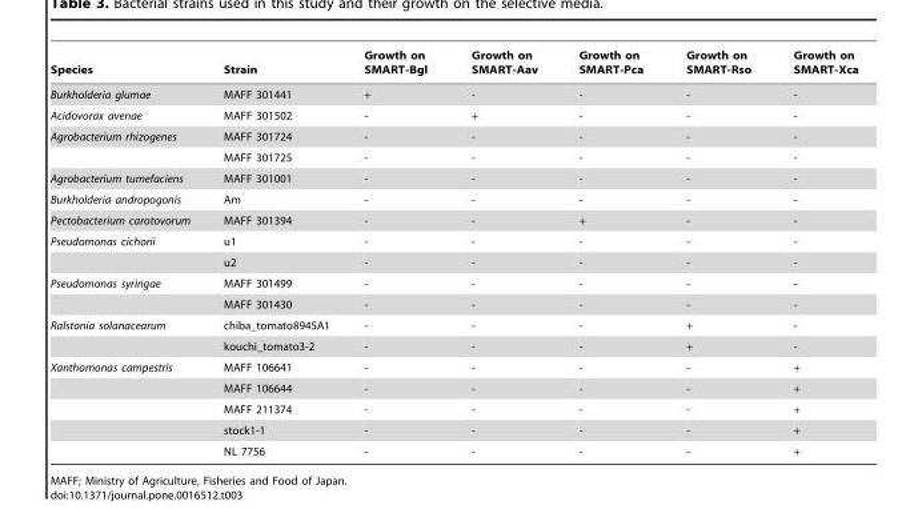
<table><thead><tr><td>Species</td><td>Strain</td><td>Growth on SMART-Bgl</td><td>Growth on SMART-Aav</td><td>Growth on SMART-Pca</td><td>Growth on SMART-Rso</td><td>Growth on SMART-Xca</td></tr></thead><tbody><tr><td>Burkholderia glumae</td><td>MAFF 301441</td><td>+</td><td>-</td><td>-</td><td>-</td><td>-</td></tr><tr><td>Acidovorax avenae</td><td>MAFF 301502</td><td>-</td><td>+</td><td>-</td><td>-</td><td>-</td></tr><tr><td rowspan="2">Agrobacterium rhizogenes</td><td>MAFF 301724</td><td>-</td><td>-</td><td>-</td><td>-</td><td>-</td></tr><tr><td>MAFF 301725</td><td>-</td><td>-</td><td>-</td><td>-</td><td>-</td></tr><tr><td>Agrobacterium tumefaciens</td><td>MAFF 301001</td><td>-</td><td>-</td><td>-</td><td>-</td><td>-</td></tr><tr><td>Burkholderia andropogonis</td><td>Am</td><td>-</td><td>-</td><td>-</td><td>-</td><td>-</td></tr><tr><td>Pectobacterium carotovorum</td><td>MAFF 301394</td><td>-</td><td>-</td><td>+</td><td>-</td><td>-</td></tr><tr><td rowspan="2">Pseudomonas cichorii</td><td>u1</td><td>-</td><td>-</td><td>-</td><td>-</td><td>-</td></tr><tr><td>u2</td><td>-</td><td>-</td><td>-</td><td>-</td><td>-</td></tr><tr><td rowspan="2">Pseudomonas syringae</td><td>MAFF 301499</td><td>-</td><td>-</td><td>-</td><td>-</td><td>-</td></tr><tr><td>MAFF 301430</td><td>-</td><td>-</td><td>-</td><td>-</td><td>-</td></tr><tr><td rowspan="2">Ralstonia solanacearum</td><td>chiba_tomato8945A1</td><td>-</td><td>-</td><td>-</td><td>+</td><td>-</td></tr><tr><td>kouchi_tomato3-2</td><td>-</td><td>-</td><td>-</td><td>+</td><td>-</td></tr><tr><td rowspan="5">Xanthomonas campestris</td><td>MAFF 106641</td><td>-</td><td>-</td><td>-</td><td>-</td><td>+</td></tr><tr><td>MAFF 106644</td><td>-</td><td>-</td><td>-</td><td>-</td><td>+</td></tr><tr><td>MAFF 211374</td><td>-</td><td>-</td><td>-</td><td>-</td><td>+</td></tr><tr><td>stock1-1</td><td>-</td><td>-</td><td>-</td><td>-</td><td>+</td></tr><tr><td>NL 7756</td><td>-</td><td>-</td><td>-</td><td>-</td><td>+</td></tr></tbody></table>